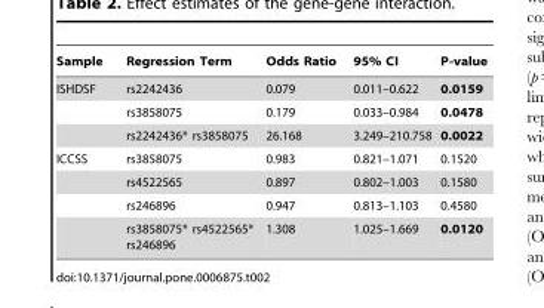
<table><thead><tr><td>Sample</td><td>Regression Term</td><td>Odds Ratio</td><td>95% CI</td><td>P-value</td></tr></thead><tbody><tr><td rowspan="3">ISHDSF</td><td>rs2242436</td><td>0.079</td><td>0.011–0.622</td><td>0.0159</td></tr><tr><td>rs3858075</td><td>0.179</td><td>0.033–0.984</td><td>0.0478</td></tr><tr><td>rs2242436* rs3858075</td><td>26.168</td><td>3.249–210.758</td><td>0.0022</td></tr><tr><td rowspan="4">ICCSS</td><td>rs3858075</td><td>0.983</td><td>0.821–1.071</td><td>0.1520</td></tr><tr><td>rs4522565</td><td>0.897</td><td>0.802–1.003</td><td>0.1580</td></tr><tr><td>rs246896</td><td>0.947</td><td>0.813–1.103</td><td>0.4580</td></tr><tr><td>rs3858075* rs4522565* rs246896</td><td>1.308</td><td>1.025–1.669</td><td>0.0120</td></tr></tbody></table>